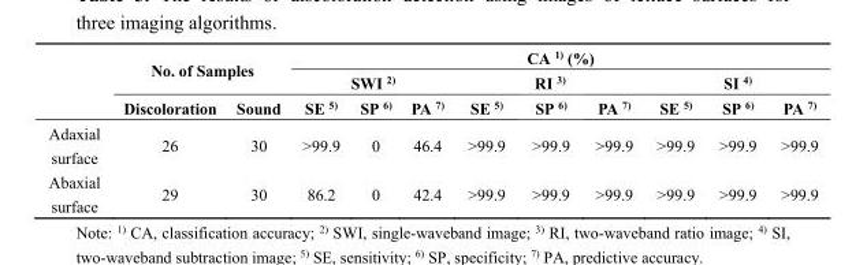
<table><thead><tr><td rowspan="3"></td><td rowspan="2" colspan="2">No. of Samples</td><td colspan="9">CA <sup>1)</sup> (%)</td></tr><tr><td colspan="3">SWI <sup>2)</sup></td><td colspan="3">RI <sup>3)</sup></td><td colspan="3">SI <sup>4)</sup></td></tr><tr><td>Discoloration</td><td>Sound</td><td>SE <sup>5)</sup></td><td>SP <sup>6)</sup></td><td>PA <sup>7)</sup></td><td>SE <sup>5)</sup></td><td>SP <sup>6)</sup></td><td>PA <sup>7)</sup></td><td>SE <sup>5)</sup></td><td>SP <sup>6)</sup></td><td>PA <sup>7)</sup></td></tr></thead><tbody><tr><td>Adaxial surface</td><td>26</td><td>30</td><td>&gt;99.9</td><td>0</td><td>46.4</td><td>&gt;99.9</td><td>&gt;99.9</td><td>&gt;99.9</td><td>&gt;99.9</td><td>&gt;99.9</td><td>&gt;99.9</td></tr><tr><td>Abaxial surface</td><td>29</td><td>30</td><td>86.2</td><td>0</td><td>42.4</td><td>&gt;99.9</td><td>&gt;99.9</td><td>&gt;99.9</td><td>&gt;99.9</td><td>&gt;99.9</td><td>&gt;99.9</td></tr></tbody></table>